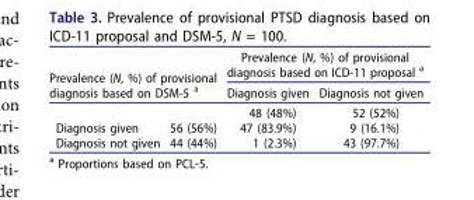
<table><thead><tr><td rowspan="2" colspan="2">Prevalence (N, %) of provisional diagnosis based on DSM-5 <sup>a</sup></td><td colspan="2">Prevalence (N, %) of provisional diagnosis based on ICD-11 proposal <sup>a</sup></td></tr><tr><td rowspan="2">Diagnosis given 48 (48%)</td><td rowspan="2">Diagnosis not given 52 (52%)</td></tr><tr><td></td><td></td></tr></thead><tbody><tr><td>Diagnosis given</td><td>56 (56%)</td><td>47 (83.9%)</td><td>9 (16.1%)</td></tr><tr><td>Diagnosis not given</td><td>44 (44%)</td><td>1 (2.3%)</td><td>43 (97.7%)</td></tr></tbody></table>